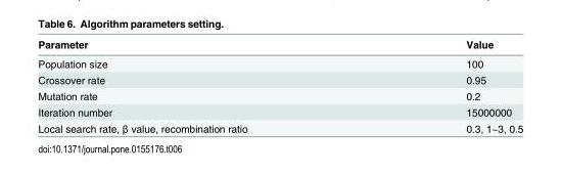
<table><thead><tr><td>Parameter</td><td>Value</td></tr></thead><tbody><tr><td>Population size</td><td>100</td></tr><tr><td>Crossover rate</td><td>0.95</td></tr><tr><td>Mutation rate</td><td>0.2</td></tr><tr><td>Iteration number</td><td>15000000</td></tr><tr><td>Local search rate, β value, recombination ratio</td><td>0.3, 1~3, 0.5</td></tr></tbody></table>